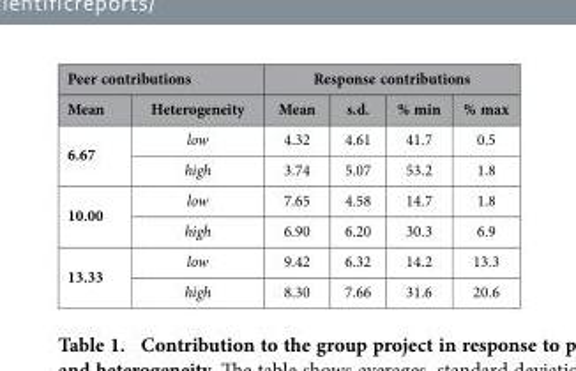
<table><thead><tr><td colspan="2">Peer contributions</td><td colspan="4">Response contributions</td></tr><tr><td>Mean</td><td>Heterogeneity</td><td>Mean</td><td>s.d.</td><td>% min</td><td>% max</td></tr></thead><tbody><tr><td rowspan="2">6.67</td><td>low</td><td>4.32</td><td>4.61</td><td>41.7</td><td>0.5</td></tr><tr><td>high</td><td>3.74</td><td>5.07</td><td>53.2</td><td>1.8</td></tr><tr><td rowspan="2">10.00</td><td>low</td><td>7.65</td><td>4.58</td><td>14.7</td><td>1.8</td></tr><tr><td>high</td><td>6.90</td><td>6.20</td><td>30.3</td><td>6.9</td></tr><tr><td rowspan="2">13.33</td><td>low</td><td>9.42</td><td>6.32</td><td>14.2</td><td>13.3</td></tr><tr><td>high</td><td>8.30</td><td>7.66</td><td>31.6</td><td>20.6</td></tr></tbody></table>